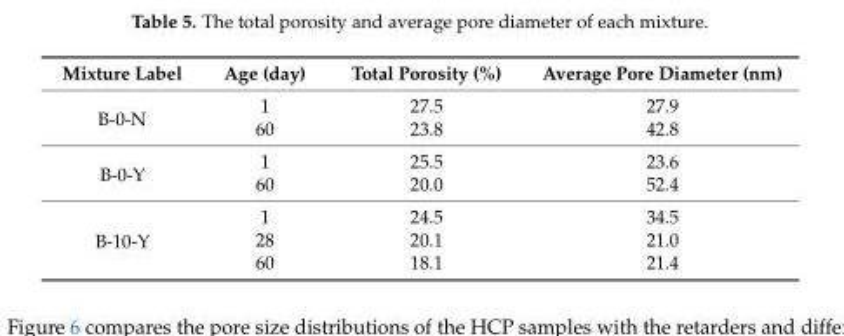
<table><thead><tr><td>Mixture Label</td><td>Age (day)</td><td>Total Porosity (%)</td><td>Average Pore Diameter (nm)</td></tr></thead><tbody><tr><td rowspan="2">B-0-N</td><td>1</td><td>27.5</td><td>27.9</td></tr><tr><td>60</td><td>23.8</td><td>42.8</td></tr><tr><td rowspan="2">B-0-Y</td><td>1</td><td>25.5</td><td>23.6</td></tr><tr><td>60</td><td>20.0</td><td>52.4</td></tr><tr><td rowspan="3">B-10-Y</td><td>1</td><td>24.5</td><td>34.5</td></tr><tr><td>28</td><td>20.1</td><td>21.0</td></tr><tr><td>60</td><td>18.1</td><td>21.4</td></tr></tbody></table>